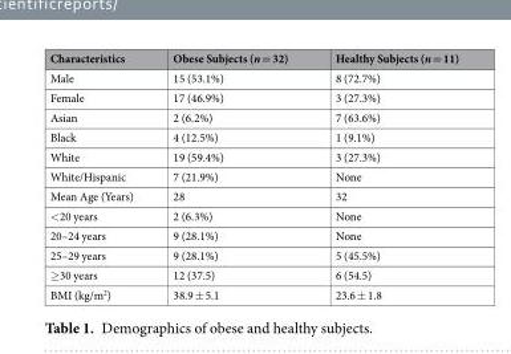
<table><thead><tr><td>Characteristics</td><td>Obese Subjects (n = 32)</td><td>Healthy Subjects (n = 11)</td></tr></thead><tbody><tr><td>Male</td><td>15 (53.1%)</td><td>8 (72.7%)</td></tr><tr><td>Female</td><td>17 (46.9%)</td><td>3 (27.3%)</td></tr><tr><td>Asian</td><td>2 (6.2%)</td><td>7 (63.6%)</td></tr><tr><td>Black</td><td>4 (12.5%)</td><td>1 (9.1%)</td></tr><tr><td>White</td><td>19 (59.4%)</td><td>3 (27.3%)</td></tr><tr><td>White/Hispanic</td><td>7 (21.9%)</td><td>None</td></tr><tr><td>Mean Age (Years)</td><td>28</td><td>32</td></tr><tr><td>&lt;20 years</td><td>2 (6.3%)</td><td>None</td></tr><tr><td>20–24 years</td><td>9 (28.1%)</td><td>None</td></tr><tr><td>25–29 years</td><td>9 (28.1%)</td><td>5 (45.5%)</td></tr><tr><td>≥30 years</td><td>12 (37.5)</td><td>6 (54.5)</td></tr><tr><td>BMI (kg/m<sup>2</sup>)</td><td>38.9 ± 5.1</td><td>23.6 ± 1.8</td></tr></tbody></table>